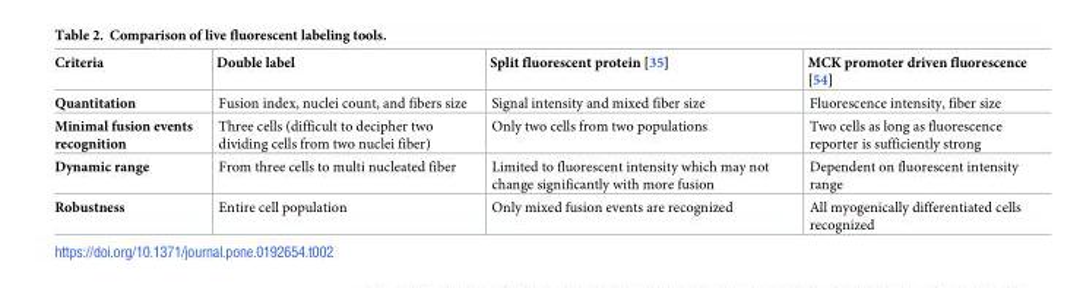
<table><thead><tr><td>Criteria</td><td>Double label</td><td>Split fluorescent protein [35]</td><td>MCK promoter driven fluorescence [54]</td></tr></thead><tbody><tr><td>Quantitation</td><td>Fusion index, nuclei count, and fibers size</td><td>Signal intensity and mixed fiber size</td><td>Fluorescence intensity, fiber size</td></tr><tr><td>Minimal fusion events recognition</td><td>Three cells (difficult to decipher two dividing cells from two nuclei fiber)</td><td>Only two cells from two populations</td><td>Two cells as long as fluorescence reporter is sufficiently strong</td></tr><tr><td>Dynamic range</td><td>From three cells to multi nucleated fiber</td><td>Limited to fluorescent intensity which may not change significantly with more fusion</td><td>Dependent on fluorescent intensity range</td></tr><tr><td>Robustness</td><td>Entire cell population</td><td>Only mixed fusion events are recognized</td><td>All myogenically differentiated cells recognized</td></tr></tbody></table>